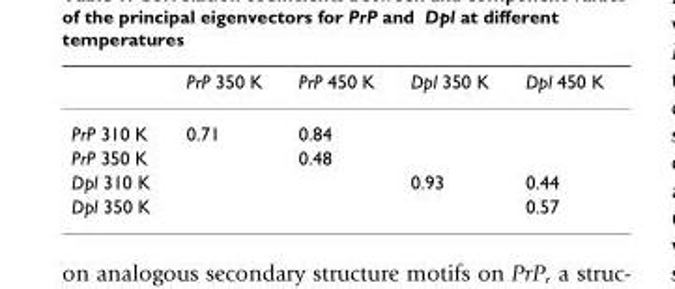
<table><thead><tr><td></td><td>PrP 350 K</td><td>PrP 450 K</td><td>Dpl 350 K</td><td>Dpl 450 K</td></tr></thead><tbody><tr><td>PrP 310 K</td><td>0.71</td><td>0.84</td><td></td><td></td></tr><tr><td>PrP 350 K</td><td></td><td>0.48</td><td></td><td></td></tr><tr><td>Dpl 310 K</td><td></td><td></td><td>0.93</td><td>0.44</td></tr><tr><td>Dpl 350 K</td><td></td><td></td><td></td><td>0.57</td></tr></tbody></table>